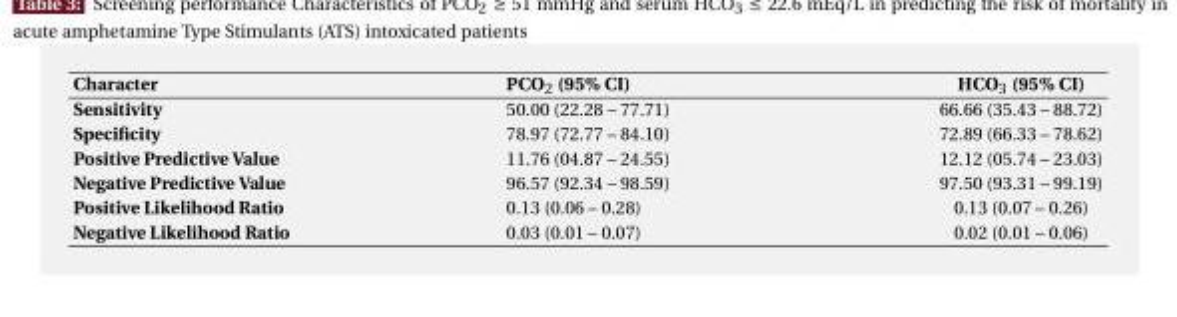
<table><thead><tr><td>Character</td><td>PCO2 (95% CI)</td><td>HCO3 (95% CI)</td></tr></thead><tbody><tr><td>Sensitivity</td><td>50.00 (22.28 – 77.71)</td><td>66.66 (35.43 – 88.72)</td></tr><tr><td>Specificity</td><td>78.97 (72.77 – 84.10)</td><td>72.89 (66.33 – 78.62)</td></tr><tr><td>Positive Predictive Value</td><td>11.76 (04.87 – 24.55)</td><td>12.12 (05.74 – 23.03)</td></tr><tr><td>Negative Predictive Value</td><td>96.57 (92.34 – 98.59)</td><td>97.50 (93.31 – 99.19)</td></tr><tr><td>Positive Likelihood Ratio</td><td>0.13 (0.06 – 0.28)</td><td>0.13 (0.07 – 0.26)</td></tr><tr><td>Negative Likelihood Ratio</td><td>0.03 (0.01 – 0.07)</td><td>0.02 (0.01 – 0.06)</td></tr></tbody></table>